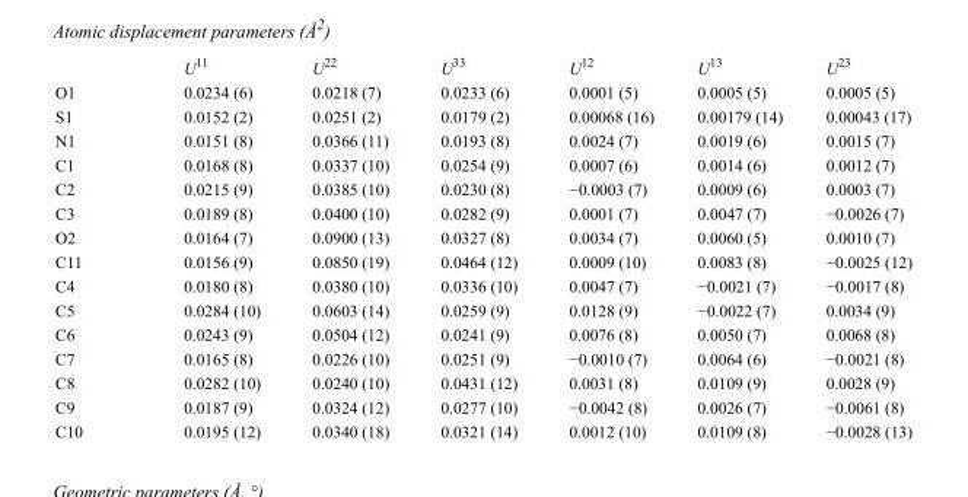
<table><thead><tr><td></td><td>U<sup>11</sup></td><td>U<sup>22</sup></td><td>U<sup>33</sup></td><td>U<sup>12</sup></td><td>U<sup>13</sup></td><td>U<sup>23</sup></td></tr></thead><tbody><tr><td>O1</td><td>0.0234 (6)</td><td>0.0218 (7)</td><td>0.0233 (6)</td><td>0.0001 (5)</td><td>0.0005 (5)</td><td>0.0005 (5)</td></tr><tr><td>S1</td><td>0.0152 (2)</td><td>0.0251 (2)</td><td>0.0179 (2)</td><td>0.00068 (16)</td><td>0.00179 (14)</td><td>0.00043 (17)</td></tr><tr><td>N1</td><td>0.0151 (8)</td><td>0.0366 (11)</td><td>0.0193 (8)</td><td>0.0024 (7)</td><td>0.0019 (6)</td><td>0.0015 (7)</td></tr><tr><td>C1</td><td>0.0168 (8)</td><td>0.0337 (10)</td><td>0.0254 (9)</td><td>0.0007 (6)</td><td>0.0014 (6)</td><td>0.0012 (7)</td></tr><tr><td>C2</td><td>0.0215 (9)</td><td>0.0385 (10)</td><td>0.0230 (8)</td><td>−0.0003 (7)</td><td>0.0009 (6)</td><td>0.0003 (7)</td></tr><tr><td>C3</td><td>0.0189 (8)</td><td>0.0400 (10)</td><td>0.0282 (9)</td><td>0.0001 (7)</td><td>0.0047 (7)</td><td>−0.0026 (7)</td></tr><tr><td>O2</td><td>0.0164 (7)</td><td>0.0900 (13)</td><td>0.0327 (8)</td><td>0.0034 (7)</td><td>0.0060 (5)</td><td>0.0010 (7)</td></tr><tr><td>C11</td><td>0.0156 (9)</td><td>0.0850 (19)</td><td>0.0464 (12)</td><td>0.0009 (10)</td><td>0.0083 (8)</td><td>−0.0025 (12)</td></tr><tr><td>C4</td><td>0.0180 (8)</td><td>0.0380 (10)</td><td>0.0336 (10)</td><td>0.0047 (7)</td><td>−0.0021 (7)</td><td>−0.0017 (8)</td></tr><tr><td>C5</td><td>0.0284 (10)</td><td>0.0603 (14)</td><td>0.0259 (9)</td><td>0.0128 (9)</td><td>−0.0022 (7)</td><td>0.0034 (9)</td></tr><tr><td>C6</td><td>0.0243 (9)</td><td>0.0504 (12)</td><td>0.0241 (9)</td><td>0.0076 (8)</td><td>0.0050 (7)</td><td>0.0068 (8)</td></tr><tr><td>C7</td><td>0.0165 (8)</td><td>0.0226 (10)</td><td>0.0251 (9)</td><td>−0.0010 (7)</td><td>0.0064 (6)</td><td>−0.0021 (8)</td></tr><tr><td>C8</td><td>0.0282 (10)</td><td>0.0240 (10)</td><td>0.0431 (12)</td><td>0.0031 (8)</td><td>0.0109 (9)</td><td>0.0028 (9)</td></tr><tr><td>C9</td><td>0.0187 (9)</td><td>0.0324 (12)</td><td>0.0277 (10)</td><td>−0.0042 (8)</td><td>0.0026 (7)</td><td>−0.0061 (8)</td></tr><tr><td>C10</td><td>0.0195 (12)</td><td>0.0340 (18)</td><td>0.0321 (14)</td><td>0.0012 (10)</td><td>0.0109 (8)</td><td>−0.0028 (13)</td></tr></tbody></table>